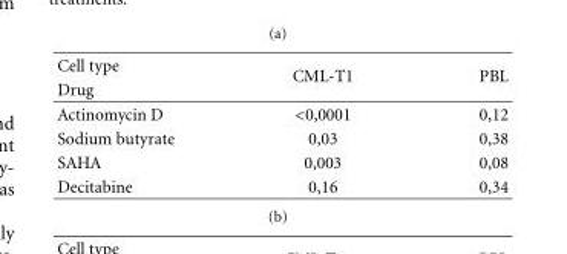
<table><thead><tr><td rowspan="2">Cell type Drug</td><td rowspan="2">CML-T1</td><td rowspan="2">PBL</td></tr><tr></tr></thead><tbody><tr><td>Actinomycin D</td><td>&lt;0,0001</td><td>0,12</td></tr><tr><td>Sodium butyrate</td><td>0,03</td><td>0,38</td></tr><tr><td>SAHA</td><td>0,003</td><td>0,08</td></tr><tr><td>Decitabine</td><td>0,16</td><td>0,34</td></tr></tbody></table>